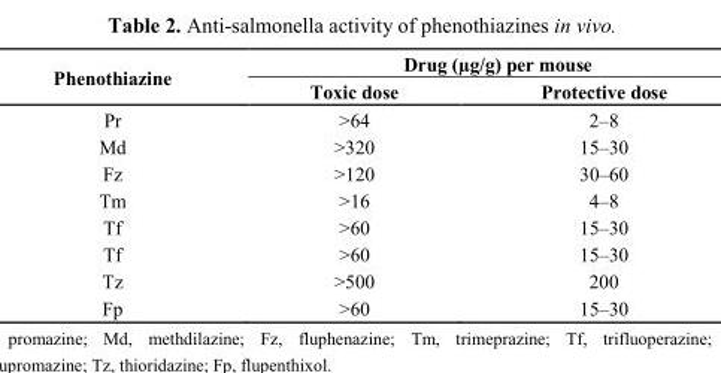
<table><thead><tr><td rowspan="2">Phenothiazine</td><td colspan="2">Drug (µg/g) per mouse</td></tr><tr><td>Toxic dose</td><td>Protective dose</td></tr></thead><tbody><tr><td>Pr</td><td>&gt;64</td><td>2–8</td></tr><tr><td>Md</td><td>&gt;320</td><td>15–30</td></tr><tr><td>Fz</td><td>&gt;120</td><td>30–60</td></tr><tr><td>Tm</td><td>&gt;16</td><td>4–8</td></tr><tr><td>Tf</td><td>&gt;60</td><td>15–30</td></tr><tr><td>Tf</td><td>&gt;60</td><td>15–30</td></tr><tr><td>Tz</td><td>&gt;500</td><td>200</td></tr><tr><td>Fp</td><td>&gt;60</td><td>15–30</td></tr></tbody></table>